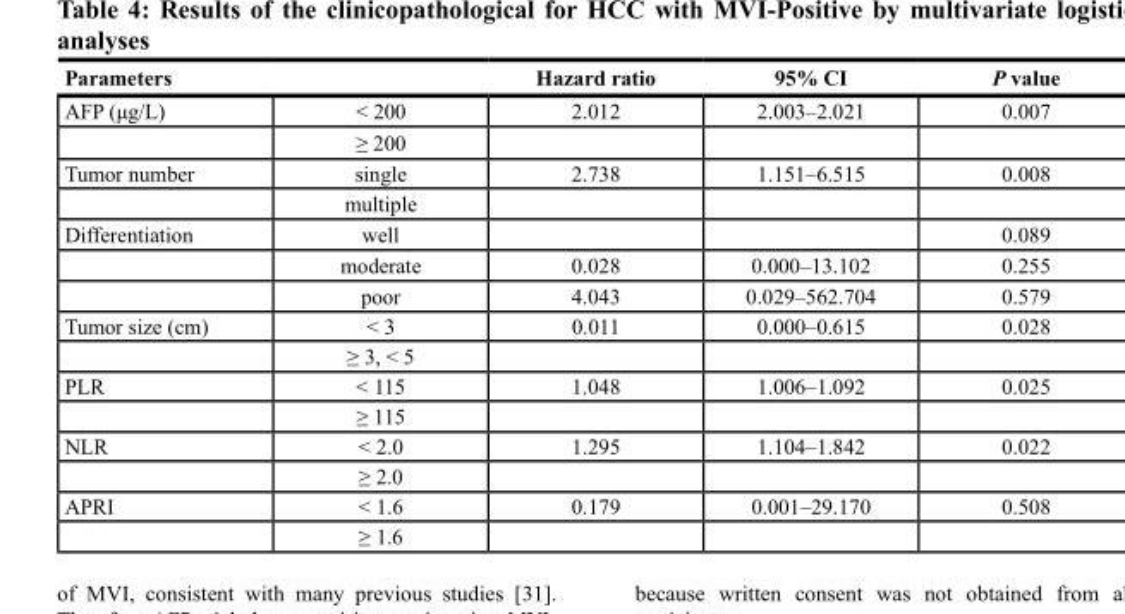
<table><thead><tr><td>Parameters</td><td></td><td>Hazard ratio</td><td>95% CI</td><td>P value</td></tr></thead><tbody><tr><td rowspan="2">AFP (μg/L)</td><td>&lt; 200</td><td>2.012</td><td>2.003–2.021</td><td>0.007</td></tr><tr><td>≥ 200</td><td></td><td></td><td></td></tr><tr><td rowspan="2">Tumor number</td><td>single</td><td>2.738</td><td>1.151–6.515</td><td>0.008</td></tr><tr><td>multiple</td><td></td><td></td><td></td></tr><tr><td rowspan="3">Differentiation</td><td>well</td><td></td><td></td><td>0.089</td></tr><tr><td>moderate</td><td>0.028</td><td>0.000–13.102</td><td>0.255</td></tr><tr><td>poor</td><td>4.043</td><td>0.029–562.704</td><td>0.579</td></tr><tr><td rowspan="2">Tumor size (cm)</td><td>&lt; 3</td><td>0.011</td><td>0.000–0.615</td><td>0.028</td></tr><tr><td>≥ 3, &lt; 5</td><td></td><td></td><td></td></tr><tr><td rowspan="2">PLR</td><td>&lt; 115</td><td>1.048</td><td>1.006–1.092</td><td>0.025</td></tr><tr><td>≥ 115</td><td></td><td></td><td></td></tr><tr><td rowspan="2">NLR</td><td>&lt; 2.0</td><td>1.295</td><td>1.104–1.842</td><td>0.022</td></tr><tr><td>≥ 2.0</td><td></td><td></td><td></td></tr><tr><td rowspan="2">APRI</td><td>&lt; 1.6</td><td>0.179</td><td>0.001–29.170</td><td>0.508</td></tr><tr><td>≥ 1.6</td><td></td><td></td><td></td></tr></tbody></table>